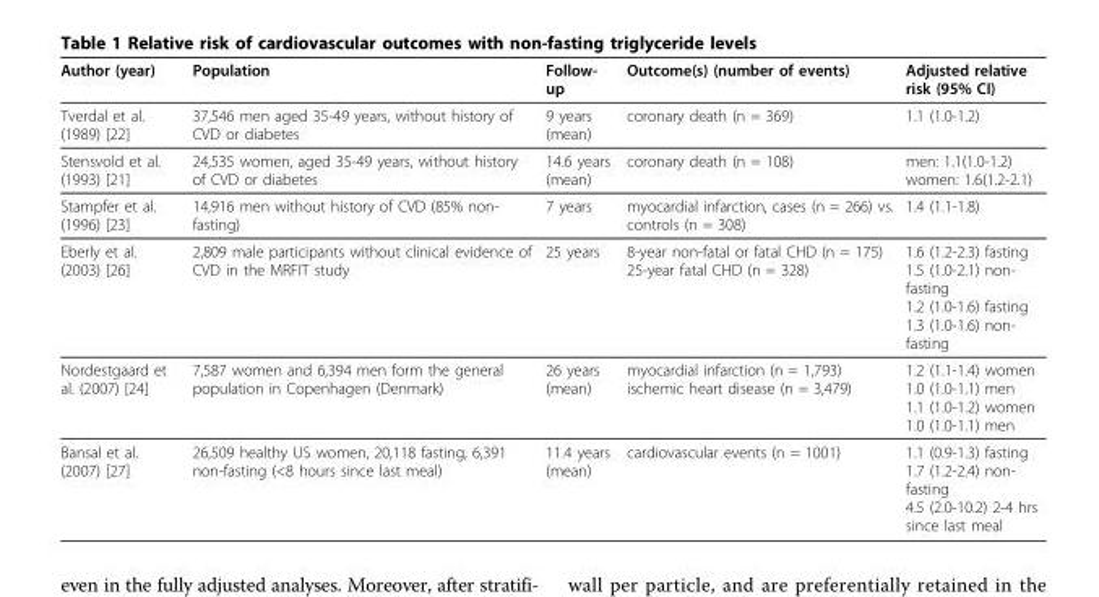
<table><thead><tr><td>Author (year)</td><td>Population</td><td>Follow- up</td><td>Outcome(s) (number of events)</td><td>Adjusted relative risk (95% CI)</td></tr></thead><tbody><tr><td>Tverdal et al. (1989) [22]</td><td>37,546 men aged 35-49 years, without history of CVD or diabetes</td><td>9 years (mean)</td><td>coronary death (n = 369)</td><td>1.1 (1.0-1.2)</td></tr><tr><td>Stensvold et al. (1993) [21]</td><td>24,535 women, aged 35-49 years, without history of CVD or diabetes</td><td>14.6 years (mean)</td><td>coronary death (n = 108)</td><td>men: 1.1(1.0-1.2) women: 1.6(1.2-2.1)</td></tr><tr><td>Stampfer et al. (1996) [23]</td><td>14,916 men without history of CVD (85% non- fasting)</td><td>7 years</td><td>myocardial infarction, cases (n = 266) vs. controls (n = 308)</td><td>1.4 (1.1-1.8)</td></tr><tr><td>Eberly et al. (2003) [26]</td><td>2,809 male participants without clinical evidence of CVD in the MRFIT study</td><td>25 years</td><td>8-year non-fatal or fatal CHD (n = 175) 25-year fatal CHD (n = 328)</td><td>1.6 (1.2-2.3) fasting 1.5 (1.0-2.1) non- fasting 1.2 (1.0-1.6) fasting 1.3 (1.0-1.6) non- fasting</td></tr><tr><td>Nordestgaard et al. (2007) [24]</td><td>7,587 women and 6,394 men form the general population in Copenhagen (Denmark)</td><td>26 years (mean)</td><td>myocardial infarction (n = 1,793) ischemic heart disease (n = 3,479)</td><td>1.2 (1.1-1.4) women 1.0 (1.0-1.1) men 1.1 (1.0-1.2) women 1.0 (1.0-1.1) men</td></tr><tr><td>Bansal et al. (2007) [27]</td><td>26,509 healthy US women, 20,118 fasting, 6,391 non-fasting (&lt;8 hours since last meal)</td><td>11.4 years (mean)</td><td>cardiovascular events (n = 1001)</td><td>1.1 (0.9-1.3) fasting 1.7 (1.2-2.4) non- fasting 4.5 (2.0-10.2) 2-4 hrs since last meal</td></tr></tbody></table>